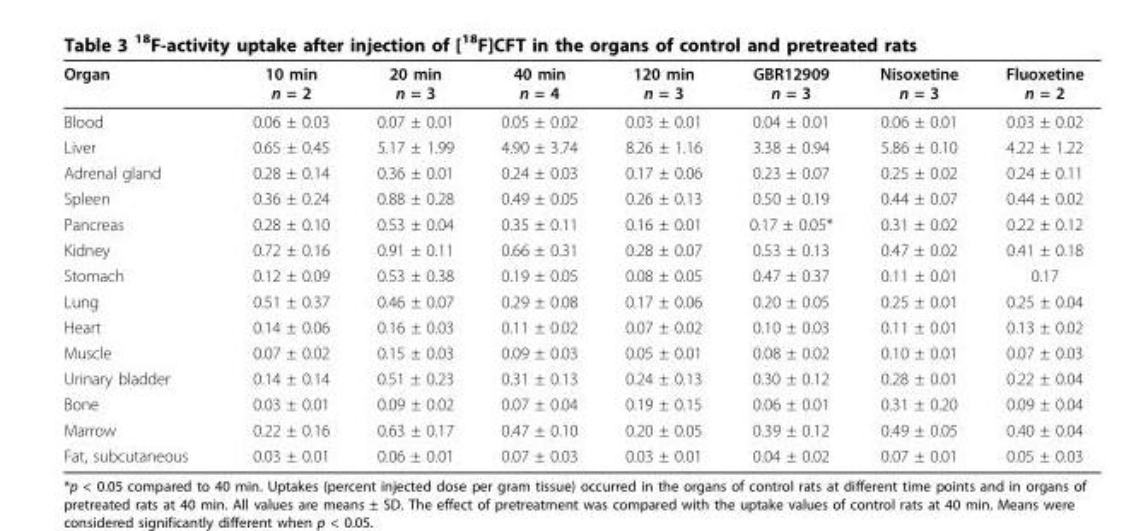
<table><thead><tr><td>Organ</td><td>10 min n = 2</td><td>20 min n = 3</td><td>40 min n = 4</td><td>120 min n = 3</td><td>GBR12909 n = 3</td><td>Nisoxetine n = 3</td><td>Fluoxetine n = 2</td></tr></thead><tbody><tr><td>Blood</td><td>0.06 ± 0.03</td><td>0.07 ± 0.01</td><td>0.05 ± 0.02</td><td>0.03 ± 0.01</td><td>0.04 ± 0.01</td><td>0.06 ± 0.01</td><td>0.03 ± 0.02</td></tr><tr><td>Liver</td><td>0.65 ± 0.45</td><td>5.17 ± 1.99</td><td>4.90 ± 3.74</td><td>8.26 ± 1.16</td><td>3.38 ± 0.94</td><td>5.86 ± 0.10</td><td>4.22 ± 1.22</td></tr><tr><td>Adrenal gland</td><td>0.28 ± 0.14</td><td>0.36 ± 0.01</td><td>0.24 ± 0.03</td><td>0.17 ± 0.06</td><td>0.23 ± 0.07</td><td>0.25 ± 0.02</td><td>0.24 ± 0.11</td></tr><tr><td>Spleen</td><td>0.36 ± 0.24</td><td>0.88 ± 0.28</td><td>0.49 ± 0.05</td><td>0.26 ± 0.13</td><td>0.50 ± 0.19</td><td>0.44 ± 0.07</td><td>0.44 ± 0.02</td></tr><tr><td>Pancreas</td><td>0.28 ± 0.10</td><td>0.53 ± 0.04</td><td>0.35 ± 0.11</td><td>0.16 ± 0.01</td><td>0.17 ± 0.05*</td><td>0.31 ± 0.02</td><td>0.22 ± 0.12</td></tr><tr><td>Kidney</td><td>0.72 ± 0.16</td><td>0.91 ± 0.11</td><td>0.66 ± 0.31</td><td>0.28 ± 0.07</td><td>0.53 ± 0.13</td><td>0.47 ± 0.02</td><td>0.41 ± 0.18</td></tr><tr><td>Stomach</td><td>0.12 ± 0.09</td><td>0.53 ± 0.38</td><td>0.19 ± 0.05</td><td>0.08 ± 0.05</td><td>0.47 ± 0.37</td><td>0.11 ± 0.01</td><td>0.17</td></tr><tr><td>Lung</td><td>0.51 ± 0.37</td><td>0.46 ± 0.07</td><td>0.29 ± 0.08</td><td>0.17 ± 0.06</td><td>0.20 ± 0.05</td><td>0.25 ± 0.01</td><td>0.25 ± 0.04</td></tr><tr><td>Heart</td><td>0.14 ± 0.06</td><td>0.16 ± 0.03</td><td>0.11 ± 0.02</td><td>0.07 ± 0.02</td><td>0.10 ± 0.03</td><td>0.11 ± 0.01</td><td>0.13 ± 0.02</td></tr><tr><td>Muscle</td><td>0.07 ± 0.02</td><td>0.15 ± 0.03</td><td>0.09 ± 0.03</td><td>0.05 ± 0.01</td><td>0.08 ± 0.02</td><td>0.10 ± 0.01</td><td>0.07 ± 0.03</td></tr><tr><td>Urinary bladder</td><td>0.14 ± 0.14</td><td>0.51 ± 0.23</td><td>0.31 ± 0.13</td><td>0.24 ± 0.13</td><td>0.30 ± 0.12</td><td>0.28 ± 0.01</td><td>0.22 ± 0.04</td></tr><tr><td>Bone</td><td>0.03 ± 0.01</td><td>0.09 ± 0.02</td><td>0.07 ± 0.04</td><td>0.19 ± 0.15</td><td>0.06 ± 0.01</td><td>0.31 ± 0.20</td><td>0.09 ± 0.04</td></tr><tr><td>Marrow</td><td>0.22 ± 0.16</td><td>0.63 ± 0.17</td><td>0.47 ± 0.10</td><td>0.20 ± 0.05</td><td>0.39 ± 0.12</td><td>0.49 ± 0.05</td><td>0.40 ± 0.04</td></tr><tr><td>Fat, subcutaneous</td><td>0.03 ± 0.01</td><td>0.06 ± 0.01</td><td>0.07 ± 0.03</td><td>0.03 ± 0.01</td><td>0.04 ± 0.02</td><td>0.07 ± 0.01</td><td>0.05 ± 0.03</td></tr></tbody></table>